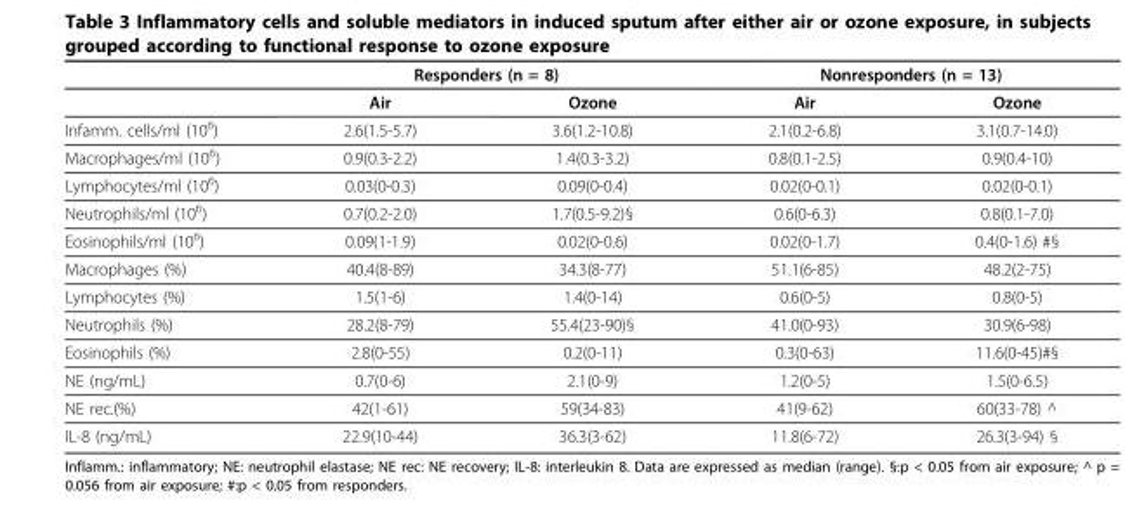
<table><thead><tr><td rowspan="2"></td><td colspan="2">Responders (n = 8)</td><td colspan="2">Nonresponders (n = 13)</td></tr><tr><td>Air</td><td>Ozone</td><td>Air</td><td>Ozone</td></tr></thead><tbody><tr><td>Infamm. cells/ml (10<sup>6</sup>)</td><td>2.6(1.5-5.7)</td><td>3.6(1.2-10.8)</td><td>2.1(0.2-6.8)</td><td>3.1(0.7-14.0)</td></tr><tr><td>Macrophages/ml (10<sup>6</sup>)</td><td>0.9(0.3-2.2)</td><td>1.4(0.3-3.2)</td><td>0.8(0.1-2.5)</td><td>0.9(0.4-10)</td></tr><tr><td>Lymphocytes/ml (10<sup>6</sup>)</td><td>0.03(0-0.3)</td><td>0.09(0-0.4)</td><td>0.02(0-0.1)</td><td>0.02(0-0.1)</td></tr><tr><td>Neutrophils/ml (10<sup>6</sup>)</td><td>0.7(0.2-2.0)</td><td>1.7(0.5-9.2)§</td><td>0.6(0-6.3)</td><td>0.8(0.1-7.0)</td></tr><tr><td>Eosinophils/ml (10<sup>6</sup>)</td><td>0.09(1-1.9)</td><td>0.02(0-0.6)</td><td>0.02(0-1.7)</td><td>0.4(0-1.6) #§</td></tr><tr><td>Macrophages (%)</td><td>40.4(8-89)</td><td>34.3(8-77)</td><td>51.1(6-85)</td><td>48.2(2-75)</td></tr><tr><td>Lymphocytes (%)</td><td>1.5(1-6)</td><td>1.4(0-14)</td><td>0.6(0-5)</td><td>0.8(0-5)</td></tr><tr><td>Neutrophils (%)</td><td>28.2(8-79)</td><td>55.4(23-90)§</td><td>41.0(0-93)</td><td>30.9(6-98)</td></tr><tr><td>Eosinophils (%)</td><td>2.8(0-55)</td><td>0.2(0-11)</td><td>0.3(0-63)</td><td>11.6(0-45)#§</td></tr><tr><td>NE (ng/mL)</td><td>0.7(0-6)</td><td>2.1(0-9)</td><td>1.2(0-5)</td><td>1.5(0-6.5)</td></tr><tr><td>NE rec.(%)</td><td>42(1-61)</td><td>59(34-83)</td><td>41(9-62)</td><td>60(33-78) ^</td></tr><tr><td>IL-8 (ng/mL)</td><td>22.9(10-44)</td><td>36.3(3-62)</td><td>11.8(6-72)</td><td>26.3(3-94) §</td></tr></tbody></table>